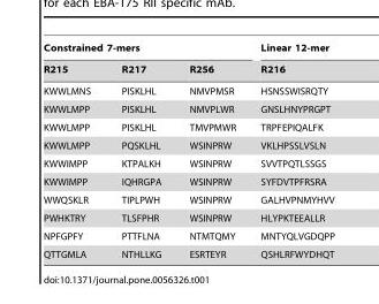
<table><thead><tr><td colspan="3">Constrained 7-mers</td><td rowspan="2">Linear 12-mer R216</td></tr><tr><td>R215</td><td>R217</td><td>R256</td></tr></thead><tbody><tr><td>KWWLMNS</td><td>PISKLHL</td><td>NMVPMSR</td><td>HSNSSWISRQTY</td></tr><tr><td>KWWLMPP</td><td>PISKLHL</td><td>NMVPLWR</td><td>GNSLHNYPRGPT</td></tr><tr><td>KWWLMPP</td><td>PISKLHL</td><td>TMVPMWR</td><td>TRPFEPIQALFK</td></tr><tr><td>KWWLMPP</td><td>PQSKLHL</td><td>WSINPRW</td><td>VKLHPSSLVSLN</td></tr><tr><td>KWWIMPP</td><td>KTPALKH</td><td>WSINPRW</td><td>SVVTPQTLSSGS</td></tr><tr><td>KWWIMPP</td><td>IQHRGPA</td><td>WSINPRW</td><td>SYFDVTPFRSRA</td></tr><tr><td>WWQSKLR</td><td>TIPLPWH</td><td>WSINPRW</td><td>GALHVPNMYHVV</td></tr><tr><td>PWHKTRY</td><td>TLSFPHR</td><td>WSINPRW</td><td>HLYPKTEEALLR</td></tr><tr><td>NPFGPFY</td><td>PTTFLNA</td><td>NTMTQMY</td><td>MNTYQLVGDQPP</td></tr><tr><td>QTTGMLA</td><td>NTHLLKG</td><td>ESRTEYR</td><td>QSHLRFWYDHQT</td></tr></tbody></table>